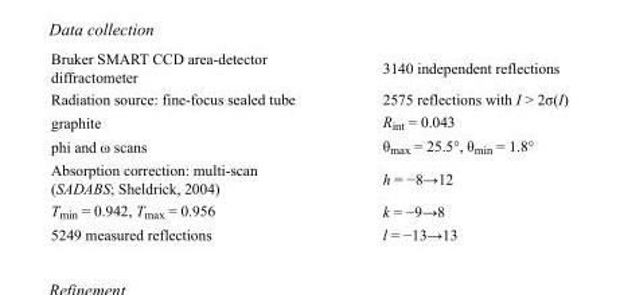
<table><tbody><tr><td>Bruker SMART CCD area-detector diffractometer</td><td>3140 independent reflections</td></tr><tr><td>Radiation source: fine-focus sealed tube</td><td>2575 reflections with I &gt; 2σ(I)</td></tr><tr><td>graphite</td><td>R<sub>int</sub> = 0.043</td></tr><tr><td>phi and ω scans</td><td>θ<sub>max</sub> = 25.5°, θ<sub>min</sub> = 1.8°</td></tr><tr><td>Absorption correction: multi-scan (SADABS; Sheldrick, 2004)</td><td>h = −8→12</td></tr><tr><td>T<sub>min</sub> = 0.942, T<sub>max</sub> = 0.956</td><td>k = −9→8</td></tr><tr><td>5249 measured reflections</td><td>l = −13→13</td></tr></tbody></table>